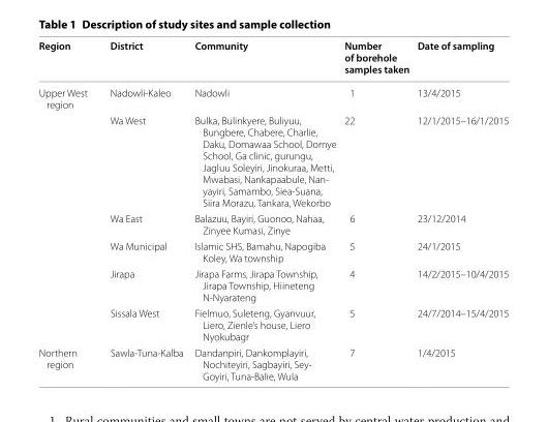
<table><thead><tr><td>Region</td><td>District</td><td>Community</td><td>Number of borehole samples taken</td><td>Date of sampling</td></tr></thead><tbody><tr><td rowspan="6">Upper West region</td><td>Nadowli-Kaleo</td><td>Nadowli</td><td>1</td><td>13/4/2015</td></tr><tr><td>Wa West</td><td>Bulka, Bulinkyere, Buliyuu, Bungbere, Chabere, Charlie, Daku, Domawaa School, Dornye School, Ga clinic, gurungu, Jagluu Soleyiri, Jinokuraa, Metti, Mwabasi, Nankapaabule, Nan- yayiri, Samambo, Siea-Suana, Siira Morazu, Tankara, Wekorbo</td><td>22</td><td>12/1/2015–16/1/2015</td></tr><tr><td>Wa East</td><td>Balazuu, Bayiri, Guonoo, Nahaa, Zinyee Kumasi, Zinye</td><td>6</td><td>23/12/2014</td></tr><tr><td>Wa Municipal</td><td>Islamic SHS, Bamahu, Napogiba Koley, Wa township</td><td>5</td><td>24/1/2015</td></tr><tr><td>Jirapa</td><td>Jirapa Farms, Jirapa Township, Jirapa Township, Hiineteng N-Nyarateng</td><td>4</td><td>14/2/2015–10/4/2015</td></tr><tr><td>Sissala West</td><td>Fielmuo, Suleteng, Gyanvuur, Liero, Zienle’s house, Liero Nyokubagr</td><td>5</td><td>24/7/2014–15/4/2015</td></tr><tr><td>Northern region</td><td>Sawla-Tuna-Kalba</td><td>Dandanpiri, Dankomplayiri, Nochiteyiri, Sagbayiri, Sey- Goyiri, Tuna-Balie, Wula</td><td>7</td><td>1/4/2015</td></tr></tbody></table>